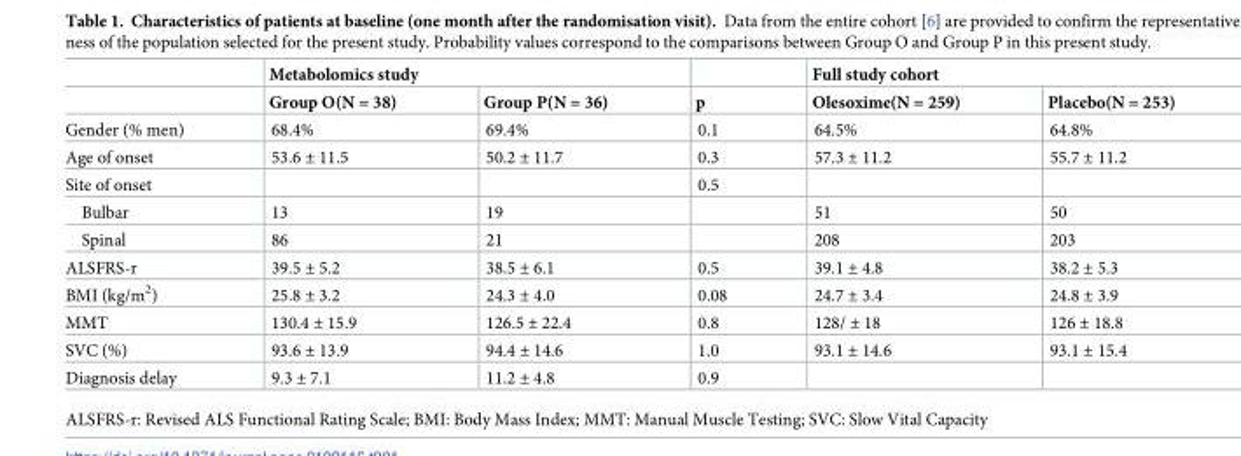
<table><thead><tr><td rowspan="2"></td><td colspan="2">Metabolomics study</td><td rowspan="2">p</td><td colspan="2">Full study cohort</td></tr><tr><td>Group O(N = 38)</td><td>Group P(N = 36)</td><td>Olesoxime(N = 259)</td><td>Placebo(N = 253)</td></tr></thead><tbody><tr><td>Gender (% men)</td><td>68.4%</td><td>69.4%</td><td>0.1</td><td>64.5%</td><td>64.8%</td></tr><tr><td>Age of onset</td><td>53.6 ± 11.5</td><td>50.2 ± 11.7</td><td>0.3</td><td>57.3 ± 11.2</td><td>55.7 ± 11.2</td></tr><tr><td>Site of onset</td><td></td><td></td><td>0.5</td><td></td><td></td></tr><tr><td>Bulbar</td><td>13</td><td>19</td><td></td><td>51</td><td>50</td></tr><tr><td>Spinal</td><td>86</td><td>21</td><td></td><td>208</td><td>203</td></tr><tr><td>ALSFRS-r</td><td>39.5 ± 5.2</td><td>38.5 ± 6.1</td><td>0.5</td><td>39.1 ± 4.8</td><td>38.2 ± 5.3</td></tr><tr><td>BMI (kg/m<sup>2</sup>)</td><td>25.8 ± 3.2</td><td>24.3 ± 4.0</td><td>0.08</td><td>24.7 ± 3.4</td><td>24.8 ± 3.9</td></tr><tr><td>MMT</td><td>130.4 ± 15.9</td><td>126.5 ± 22.4</td><td>0.8</td><td>128/ ± 18</td><td>126 ± 18.8</td></tr><tr><td>SVC (%)</td><td>93.6 ± 13.9</td><td>94.4 ± 14.6</td><td>1.0</td><td>93.1 ± 14.6</td><td>93.1 ± 15.4</td></tr><tr><td>Diagnosis delay</td><td>9.3 ± 7.1</td><td>11.2 ± 4.8</td><td>0.9</td><td></td><td></td></tr></tbody></table>